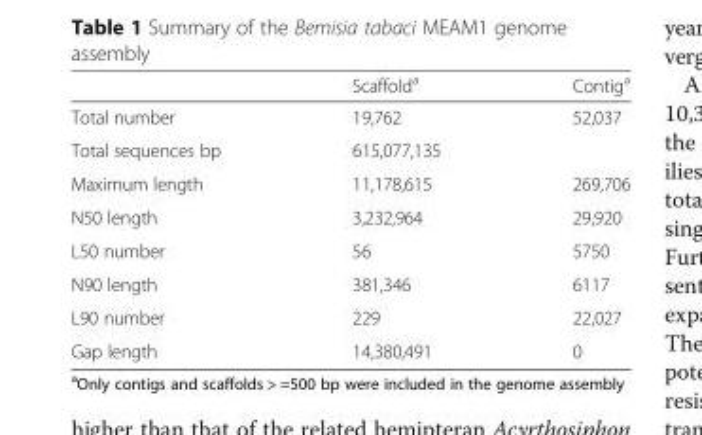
<table><thead><tr><td></td><td>Scaffold<sup>a</sup></td><td>Contig<sup>a</sup></td></tr></thead><tbody><tr><td>Total number</td><td>19,762</td><td>52,037</td></tr><tr><td>Total sequences bp</td><td>615,077,135</td><td></td></tr><tr><td>Maximum length</td><td>11,178,615</td><td>269,706</td></tr><tr><td>N50 length</td><td>3,232,964</td><td>29,920</td></tr><tr><td>L50 number</td><td>56</td><td>5750</td></tr><tr><td>N90 length</td><td>381,346</td><td>6117</td></tr><tr><td>L90 number</td><td>229</td><td>22,027</td></tr><tr><td>Gap length</td><td>14,380,491</td><td>0</td></tr></tbody></table>